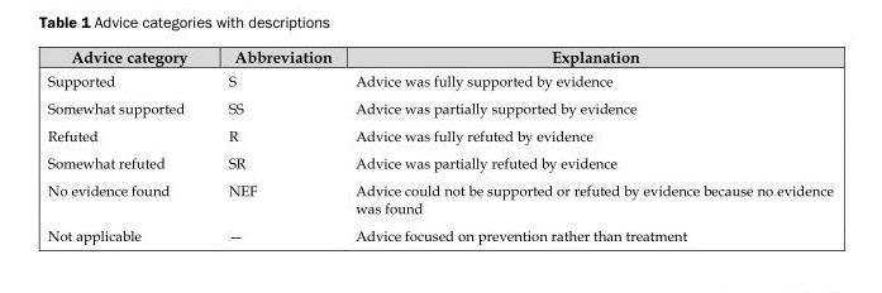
<table><thead><tr><td>Advice category</td><td>Abbreviation</td><td>Explanation</td></tr></thead><tbody><tr><td>Supported</td><td>S</td><td>Advice was fully supported by evidence</td></tr><tr><td>Somewhat supported</td><td>SS</td><td>Advice was partially supported by evidence</td></tr><tr><td>Refuted</td><td>R</td><td>Advice was fully refuted by evidence</td></tr><tr><td>Somewhat refuted</td><td>SR</td><td>Advice was partially refuted by evidence</td></tr><tr><td>No evidence found</td><td>NEF</td><td>Advice could not be supported or refuted by evidence because no evidence was found</td></tr><tr><td>Not applicable</td><td>—</td><td>Advice focused on prevention rather than treatment</td></tr></tbody></table>